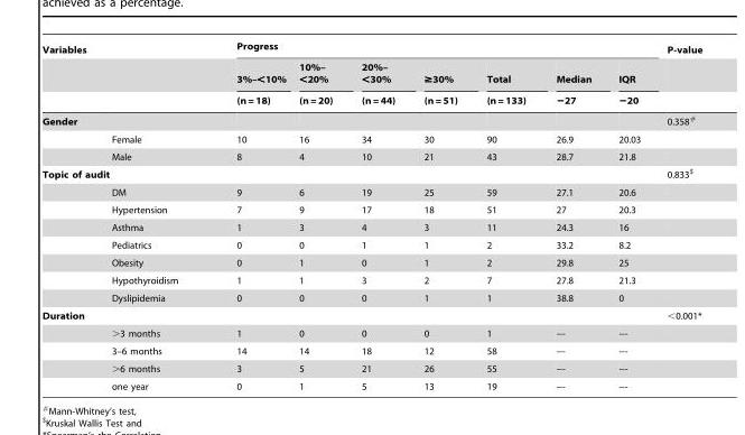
<table><thead><tr><td rowspan="3">Variables</td><td rowspan="3"></td><td colspan="7">Progress</td><td rowspan="3">P-value</td></tr><tr><td rowspan="2">3%–&lt;10% (n = 18)</td><td rowspan="2">10%– &lt;20% (n = 20)</td><td rowspan="2">20%– &lt;30% (n = 44)</td><td rowspan="2">≥30% (n = 51)</td><td rowspan="2">Total (n = 133)</td><td rowspan="2">Median −27</td><td rowspan="2">IQR −20</td></tr><tr></tr></thead><tbody><tr><td rowspan="3">Gender</td><td></td><td></td><td></td><td></td><td></td><td></td><td></td><td></td><td>0.358#</td></tr><tr><td>Female</td><td>10</td><td>16</td><td>34</td><td>30</td><td>90</td><td>26.9</td><td>20.03</td><td></td></tr><tr><td>Male</td><td>8</td><td>4</td><td>10</td><td>21</td><td>43</td><td>28.7</td><td>21.8</td><td></td></tr><tr><td rowspan="8">Topic of audit</td><td></td><td></td><td></td><td></td><td></td><td></td><td></td><td></td><td>0.833$</td></tr><tr><td>DM</td><td>9</td><td>6</td><td>19</td><td>25</td><td>59</td><td>27.1</td><td>20.6</td><td></td></tr><tr><td>Hypertension</td><td>7</td><td>9</td><td>17</td><td>18</td><td>51</td><td>27</td><td>20.3</td><td></td></tr><tr><td>Asthma</td><td>1</td><td>3</td><td>4</td><td>3</td><td>11</td><td>24.3</td><td>16</td><td></td></tr><tr><td>Pediatrics</td><td>0</td><td>0</td><td>1</td><td>1</td><td>2</td><td>33.2</td><td>8.2</td><td></td></tr><tr><td>Obesity</td><td>0</td><td>1</td><td>0</td><td>1</td><td>2</td><td>29.8</td><td>25</td><td></td></tr><tr><td>Hypothyroidism</td><td>1</td><td>1</td><td>3</td><td>2</td><td>7</td><td>27.8</td><td>21.3</td><td></td></tr><tr><td>Dyslipidemia</td><td>0</td><td>0</td><td>0</td><td>1</td><td>1</td><td>38.8</td><td>0</td><td></td></tr><tr><td rowspan="5">Duration</td><td></td><td></td><td></td><td></td><td></td><td></td><td></td><td></td><td>&lt;0.001*</td></tr><tr><td>&gt;3 months</td><td>1</td><td>0</td><td>0</td><td>0</td><td>1</td><td>---</td><td>---</td><td></td></tr><tr><td>3–6 months</td><td>14</td><td>14</td><td>18</td><td>12</td><td>58</td><td>---</td><td>---</td><td></td></tr><tr><td>&gt;6 months</td><td>3</td><td>5</td><td>21</td><td>26</td><td>55</td><td>---</td><td>---</td><td></td></tr><tr><td>one year</td><td>0</td><td>1</td><td>5</td><td>13</td><td>19</td><td>---</td><td>---</td><td></td></tr></tbody></table>